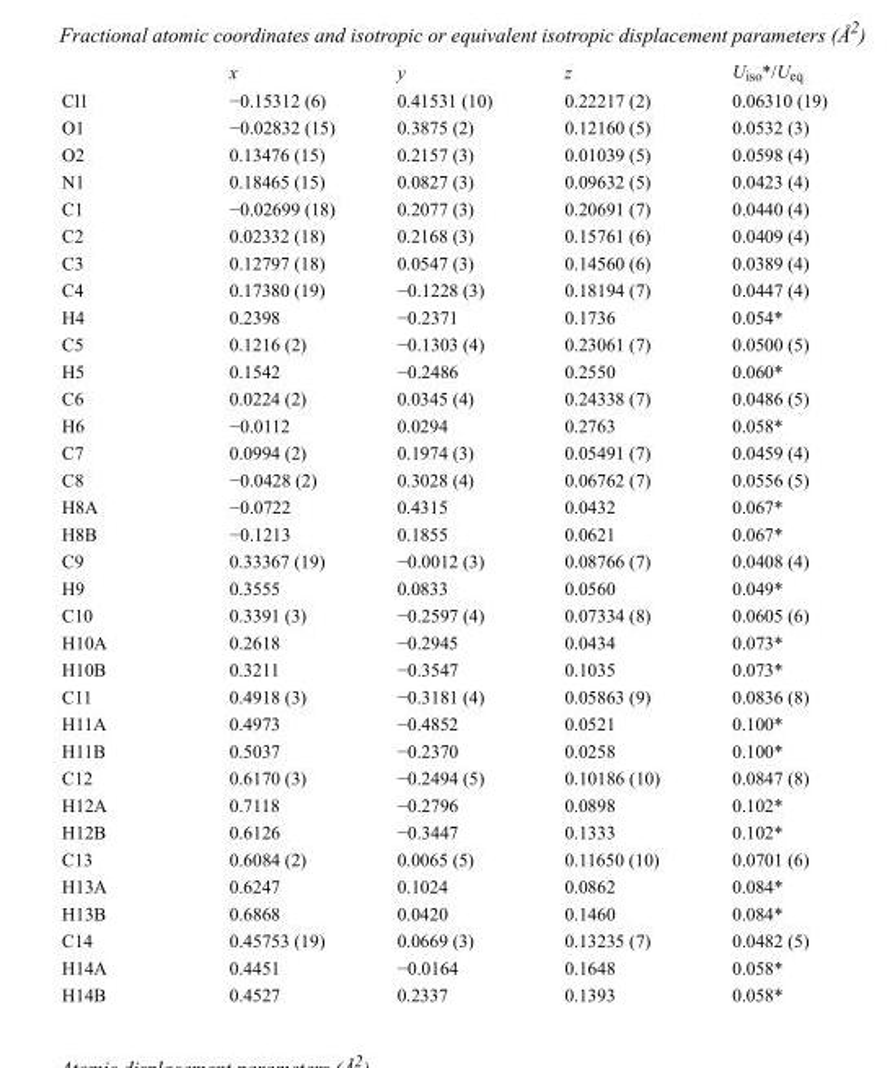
<table><thead><tr><td></td><td>x</td><td>y</td><td>z</td><td>U<sub>iso</sub>*/U<sub>eq</sub></td></tr></thead><tbody><tr><td>Cl1</td><td>−0.15312 (6)</td><td>0.41531 (10)</td><td>0.22217 (2)</td><td>0.06310 (19)</td></tr><tr><td>O1</td><td>−0.02832 (15)</td><td>0.3875 (2)</td><td>0.12160 (5)</td><td>0.0532 (3)</td></tr><tr><td>O2</td><td>0.13476 (15)</td><td>0.2157 (3)</td><td>0.01039 (5)</td><td>0.0598 (4)</td></tr><tr><td>N1</td><td>0.18465 (15)</td><td>0.0827 (3)</td><td>0.09632 (5)</td><td>0.0423 (4)</td></tr><tr><td>C1</td><td>−0.02699 (18)</td><td>0.2077 (3)</td><td>0.20691 (7)</td><td>0.0440 (4)</td></tr><tr><td>C2</td><td>0.02332 (18)</td><td>0.2168 (3)</td><td>0.15761 (6)</td><td>0.0409 (4)</td></tr><tr><td>C3</td><td>0.12797 (18)</td><td>0.0547 (3)</td><td>0.14560 (6)</td><td>0.0389 (4)</td></tr><tr><td>C4</td><td>0.17380 (19)</td><td>−0.1228 (3)</td><td>0.18194 (7)</td><td>0.0447 (4)</td></tr><tr><td>H4</td><td>0.2398</td><td>−0.2371</td><td>0.1736</td><td>0.054*</td></tr><tr><td>C5</td><td>0.1216 (2)</td><td>−0.1303 (4)</td><td>0.23061 (7)</td><td>0.0500 (5)</td></tr><tr><td>H5</td><td>0.1542</td><td>−0.2486</td><td>0.2550</td><td>0.060*</td></tr><tr><td>C6</td><td>0.0224 (2)</td><td>0.0345 (4)</td><td>0.24338 (7)</td><td>0.0486 (5)</td></tr><tr><td>H6</td><td>−0.0112</td><td>0.0294</td><td>0.2763</td><td>0.058*</td></tr><tr><td>C7</td><td>0.0994 (2)</td><td>0.1974 (3)</td><td>0.05491 (7)</td><td>0.0459 (4)</td></tr><tr><td>C8</td><td>−0.0428 (2)</td><td>0.3028 (4)</td><td>0.06762 (7)</td><td>0.0556 (5)</td></tr><tr><td>H8A</td><td>−0.0722</td><td>0.4315</td><td>0.0432</td><td>0.067*</td></tr><tr><td>H8B</td><td>−0.1213</td><td>0.1855</td><td>0.0621</td><td>0.067*</td></tr><tr><td>C9</td><td>0.33367 (19)</td><td>−0.0012 (3)</td><td>0.08766 (7)</td><td>0.0408 (4)</td></tr><tr><td>H9</td><td>0.3555</td><td>0.0833</td><td>0.0560</td><td>0.049*</td></tr><tr><td>C10</td><td>0.3391 (3)</td><td>−0.2597 (4)</td><td>0.07334 (8)</td><td>0.0605 (6)</td></tr><tr><td>H10A</td><td>0.2618</td><td>−0.2945</td><td>0.0434</td><td>0.073*</td></tr><tr><td>H10B</td><td>0.3211</td><td>−0.3547</td><td>0.1035</td><td>0.073*</td></tr><tr><td>C11</td><td>0.4918 (3)</td><td>−0.3181 (4)</td><td>0.05863 (9)</td><td>0.0836 (8)</td></tr><tr><td>H11A</td><td>0.4973</td><td>−0.4852</td><td>0.0521</td><td>0.100*</td></tr><tr><td>H11B</td><td>0.5037</td><td>−0.2370</td><td>0.0258</td><td>0.100*</td></tr><tr><td>C12</td><td>0.6170 (3)</td><td>−0.2494 (5)</td><td>0.10186 (10)</td><td>0.0847 (8)</td></tr><tr><td>H12A</td><td>0.7118</td><td>−0.2796</td><td>0.0898</td><td>0.102*</td></tr><tr><td>H12B</td><td>0.6126</td><td>−0.3447</td><td>0.1333</td><td>0.102*</td></tr><tr><td>C13</td><td>0.6084 (2)</td><td>0.0065 (5)</td><td>0.11650 (10)</td><td>0.0701 (6)</td></tr><tr><td>H13A</td><td>0.6247</td><td>0.1024</td><td>0.0862</td><td>0.084*</td></tr><tr><td>H13B</td><td>0.6868</td><td>0.0420</td><td>0.1460</td><td>0.084*</td></tr><tr><td>C14</td><td>0.45753 (19)</td><td>0.0669 (3)</td><td>0.13235 (7)</td><td>0.0482 (5)</td></tr><tr><td>H14A</td><td>0.4451</td><td>−0.0164</td><td>0.1648</td><td>0.058*</td></tr><tr><td>H14B</td><td>0.4527</td><td>0.2337</td><td>0.1393</td><td>0.058*</td></tr></tbody></table>